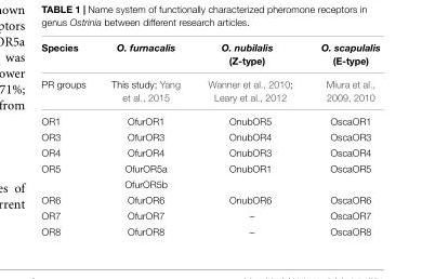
<table><thead><tr><td>Species</td><td>O. furnacalis</td><td>O. nubilalis (Z-type)</td><td>O. scapulalis (E-type)</td></tr></thead><tbody><tr><td>PR groups</td><td>This study; Yang et al., 2015</td><td>Wanner et al., 2010; Leary et al., 2012</td><td>Miura et al., 2009, 2010</td></tr><tr><td>OR1</td><td>OfurOR1</td><td>OnubOR5</td><td>OscaOR1</td></tr><tr><td>OR3</td><td>OfurOR3</td><td>OnubOR4</td><td>OscaOR3</td></tr><tr><td>OR4</td><td>OfurOR4</td><td>OnubOR3</td><td>OscaOR4</td></tr><tr><td rowspan="2">OR5</td><td>OfurOR5a</td><td>OnubOR1</td><td>OscaOR5</td></tr><tr><td>OfurOR5b</td><td></td><td></td></tr><tr><td>OR6</td><td>OfurOR6</td><td>OnubOR6</td><td>OscaOR6</td></tr><tr><td>OR7</td><td>OfurOR7</td><td>–</td><td>OscaOR7</td></tr><tr><td>OR8</td><td>OfurOR8</td><td>–</td><td>OscaOR8</td></tr></tbody></table>